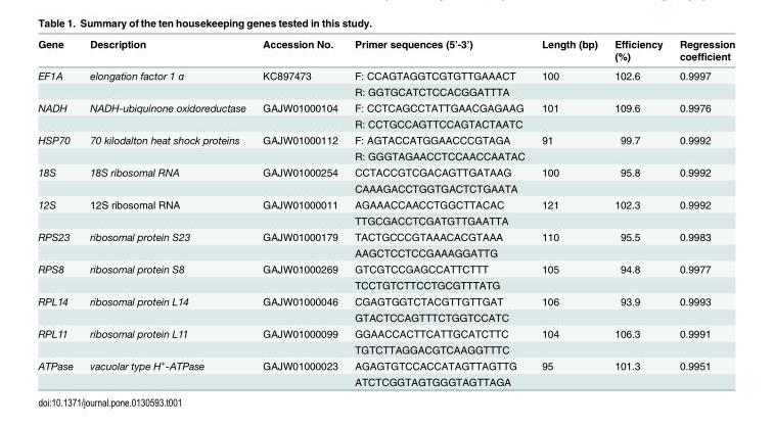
<table><thead><tr><td>Gene</td><td>Description</td><td>Accession No.</td><td>Primer sequences (5’-3’)</td><td>Length (bp)</td><td>Efficiency (%)</td><td>Regression coefficient</td></tr></thead><tbody><tr><td rowspan="2">EF1A</td><td>elongation factor 1 α</td><td>KC897473</td><td>F: CCAGTAGGTCGTGTTGAAACT</td><td>100</td><td>102.6</td><td>0.9997</td></tr><tr><td></td><td></td><td>R: GGTGCATCTCCACGGATTTA</td><td></td><td></td><td></td></tr><tr><td rowspan="2">NADH</td><td>NADH-ubiquinone oxidoreductase</td><td>GAJW01000104</td><td>F: CCTCAGCCTATTGAACGAGAAG</td><td>101</td><td>109.6</td><td>0.9976</td></tr><tr><td></td><td></td><td>R: CCTGCCAGTTCCAGTACTAATC</td><td></td><td></td><td></td></tr><tr><td rowspan="2">HSP70</td><td>70 kilodalton heat shock proteins</td><td>GAJW01000112</td><td>F: AGTACCATGGAACCCGTAGA</td><td>91</td><td>99.7</td><td>0.9992</td></tr><tr><td></td><td></td><td>R: GGGTAGAACCTCCAACCAATAC</td><td></td><td></td><td></td></tr><tr><td rowspan="2">18S</td><td>18S ribosomal RNA</td><td>GAJW01000254</td><td>CCTACCGTCGACAGTTGATAAG</td><td>100</td><td>95.8</td><td>0.9992</td></tr><tr><td></td><td></td><td>CAAAGACCTGGTGACTCTGAATA</td><td></td><td></td><td></td></tr><tr><td rowspan="2">12S</td><td>12S ribosomal RNA</td><td>GAJW01000011</td><td>AGAAACCAACCTGGCTTACAC</td><td>121</td><td>102.3</td><td>0.9992</td></tr><tr><td></td><td></td><td>TTGCGACCTCGATGTTGAATTA</td><td></td><td></td><td></td></tr><tr><td rowspan="2">RPS23</td><td>ribosomal protein S23</td><td>GAJW01000179</td><td>TACTGCCCGTAAACACGTAAA</td><td>110</td><td>95.5</td><td>0.9983</td></tr><tr><td></td><td></td><td>AAGCTCCTCCGAAAGGATTG</td><td></td><td></td><td></td></tr><tr><td rowspan="2">RPS8</td><td>ribosomal protein S8</td><td>GAJW01000269</td><td>GTCGTCCGAGCCATTCTTT</td><td>105</td><td>94.8</td><td>0.9977</td></tr><tr><td></td><td></td><td>TCCTGTCTTCCTGCGTTTATG</td><td></td><td></td><td></td></tr><tr><td rowspan="2">RPL14</td><td>ribosomal protein L14</td><td>GAJW01000046</td><td>CGAGTGGTCTACGTTGTTGAT</td><td>106</td><td>93.9</td><td>0.9993</td></tr><tr><td></td><td></td><td>GTACTCCAGTTTCTGGTCCATC</td><td></td><td></td><td></td></tr><tr><td rowspan="2">RPL11</td><td>ribosomal protein L11</td><td>GAJW01000099</td><td>GGAACCACTTCATTGCATCTTC</td><td>104</td><td>106.3</td><td>0.9991</td></tr><tr><td></td><td></td><td>TGTCTTAGGACGTCAAGGTTTC</td><td></td><td></td><td></td></tr><tr><td rowspan="2">ATPase</td><td>vacuolar type H<sup>+</sup>-ATPase</td><td>GAJW01000023</td><td>AGAGTGTCCACCATAGTTAGTTG</td><td>95</td><td>101.3</td><td>0.9951</td></tr><tr><td></td><td></td><td>ATCTCGGTAGTGGGTAGTTAGA</td><td></td><td></td><td></td></tr></tbody></table>